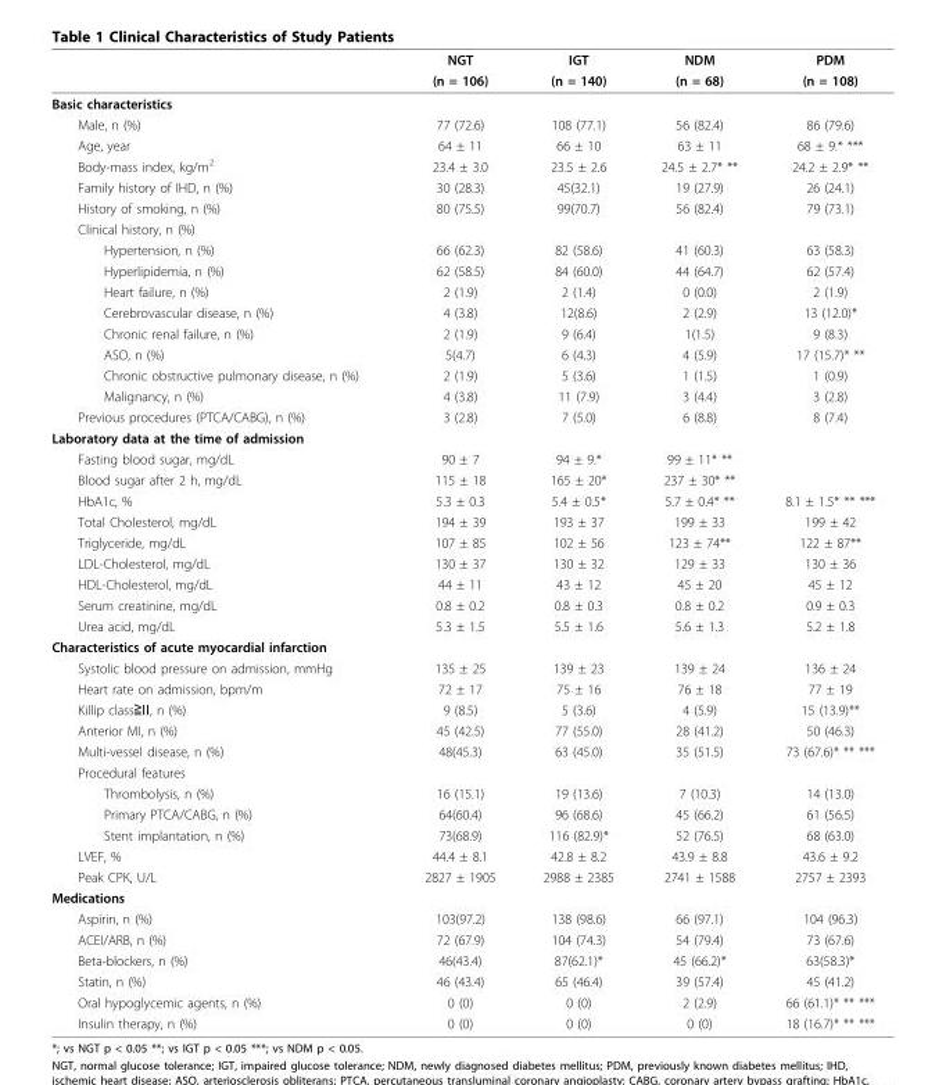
<table><thead><tr><td rowspan="2"></td><td rowspan="2">NGT (n = 106)</td><td rowspan="2">IGT (n = 140)</td><td rowspan="2">NDM (n = 68)</td><td rowspan="2">PDM (n = 108)</td></tr><tr></tr></thead><tbody><tr><td colspan="5">Basic characteristics</td></tr><tr><td>Male, n (%)</td><td>77 (72.6)</td><td>108 (77.1)</td><td>56 (82.4)</td><td>86 (79.6)</td></tr><tr><td>Age, year</td><td>64 ± 11</td><td>66 ± 10</td><td>63 ± 11</td><td>68 ± 9.* ***</td></tr><tr><td>Body-mass index, kg/m<sup>2</sup></td><td>23.4 ± 3.0</td><td>23.5 ± 2.6</td><td>24.5 ± 2.7* **</td><td>24.2 ± 2.9* **</td></tr><tr><td>Family history of IHD, n (%)</td><td>30 (28.3)</td><td>45(32.1)</td><td>19 (27.9)</td><td>26 (24.1)</td></tr><tr><td>History of smoking, n (%)</td><td>80 (75.5)</td><td>99(70.7)</td><td>56 (82.4)</td><td>79 (73.1)</td></tr><tr><td colspan="5">Clinical history, n (%)</td></tr><tr><td>Hypertension, n (%)</td><td>66 (62.3)</td><td>82 (58.6)</td><td>41 (60.3)</td><td>63 (58.3)</td></tr><tr><td>Hyperlipidemia, n (%)</td><td>62 (58.5)</td><td>84 (60.0)</td><td>44 (64.7)</td><td>62 (57.4)</td></tr><tr><td>Heart failure, n (%)</td><td>2 (1.9)</td><td>2 (1.4)</td><td>0 (0.0)</td><td>2 (1.9)</td></tr><tr><td>Cerebrovascular disease, n (%)</td><td>4 (3.8)</td><td>12(8.6)</td><td>2 (2.9)</td><td>13 (12.0)*</td></tr><tr><td>Chronic renal failure, n (%)</td><td>2 (1.9)</td><td>9 (6.4)</td><td>1(1.5)</td><td>9 (8.3)</td></tr><tr><td>ASO, n (%)</td><td>5(4.7)</td><td>6 (4.3)</td><td>4 (5.9)</td><td>17 (15.7)* **</td></tr><tr><td>Chronic obstructive pulmonary disease, n (%)</td><td>2 (1.9)</td><td>5 (3.6)</td><td>1 (1.5)</td><td>1 (0.9)</td></tr><tr><td>Malignancy, n (%)</td><td>4 (3.8)</td><td>11 (7.9)</td><td>3 (4.4)</td><td>3 (2.8)</td></tr><tr><td>Previous procedures (PTCA/CABG), n (%)</td><td>3 (2.8)</td><td>7 (5.0)</td><td>6 (8.8)</td><td>8 (7.4)</td></tr><tr><td colspan="5">Laboratory data at the time of admission</td></tr><tr><td>Fasting blood sugar, mg/dL</td><td>90 ± 7</td><td>94 ± 9.*</td><td>99 ± 11* **</td><td></td></tr><tr><td>Blood sugar after 2 h, mg/dL</td><td>115 ± 18</td><td>165 ± 20*</td><td>237 ± 30* **</td><td></td></tr><tr><td>HbA1c, %</td><td>5.3 ± 0.3</td><td>5.4 ± 0.5*</td><td>5.7 ± 0.4* **</td><td>8.1 ± 1.5* ** ***</td></tr><tr><td>Total Cholesterol, mg/dL</td><td>194 ± 39</td><td>193 ± 37</td><td>199 ± 33</td><td>199 ± 42</td></tr><tr><td>Triglyceride, mg/dL</td><td>107 ± 85</td><td>102 ± 56</td><td>123 ± 74**</td><td>122 ± 87**</td></tr><tr><td>LDL-Cholesterol, mg/dL</td><td>130 ± 37</td><td>130 ± 32</td><td>129 ± 33</td><td>130 ± 36</td></tr><tr><td>HDL-Cholesterol, mg/dL</td><td>44 ± 11</td><td>43 ± 12</td><td>45 ± 20</td><td>45 ± 12</td></tr><tr><td>Serum creatinine, mg/dL</td><td>0.8 ± 0.2</td><td>0.8 ± 0.3</td><td>0.8 ± 0.2</td><td>0.9 ± 0.3</td></tr><tr><td>Urea acid, mg/dL</td><td>5.3 ± 1.5</td><td>5.5 ± 1.6</td><td>5.6 ± 1.3</td><td>5.2 ± 1.8</td></tr><tr><td colspan="5">Characteristics of acute myocardial infarction</td></tr><tr><td>Systolic blood pressure on admission, mmHg</td><td>135 ± 25</td><td>139 ± 23</td><td>139 ± 24</td><td>136 ± 24</td></tr><tr><td>Heart rate on admission, bpm/m</td><td>72 ± 17</td><td>75 ± 16</td><td>76 ± 18</td><td>77 ± 19</td></tr><tr><td>Killip class≧Ⅱ, n (%)</td><td>9 (8.5)</td><td>5 (3.6)</td><td>4 (5.9)</td><td>15 (13.9)**</td></tr><tr><td>Anterior MI, n (%)</td><td>45 (42.5)</td><td>77 (55.0)</td><td>28 (41.2)</td><td>50 (46.3)</td></tr><tr><td>Multi-vessel disease, n (%)</td><td>48(45.3)</td><td>63 (45.0)</td><td>35 (51.5)</td><td>73 (67.6)* ** ***</td></tr><tr><td colspan="5">Procedural features</td></tr><tr><td>Thrombolysis, n (%)</td><td>16 (15.1)</td><td>19 (13.6)</td><td>7 (10.3)</td><td>14 (13.0)</td></tr><tr><td>Primary PTCA/CABG, n (%)</td><td>64(60.4)</td><td>96 (68.6)</td><td>45 (66.2)</td><td>61 (56.5)</td></tr><tr><td>Stent implantation, n (%)</td><td>73(68.9)</td><td>116 (82.9)*</td><td>52 (76.5)</td><td>68 (63.0)</td></tr><tr><td>LVEF, %</td><td>44.4 ± 8.1</td><td>42.8 ± 8.2</td><td>43.9 ± 8.8</td><td>43.6 ± 9.2</td></tr><tr><td>Peak CPK, U/L</td><td>2827 ± 1905</td><td>2988 ± 2385</td><td>2741 ± 1588</td><td>2757 ± 2393</td></tr><tr><td colspan="5">Medications</td></tr><tr><td>Aspirin, n (%)</td><td>103(97.2)</td><td>138 (98.6)</td><td>66 (97.1)</td><td>104 (96.3)</td></tr><tr><td>ACEI/ARB, n (%)</td><td>72 (67.9)</td><td>104 (74.3)</td><td>54 (79.4)</td><td>73 (67.6)</td></tr><tr><td>Beta-blockers, n (%)</td><td>46(43.4)</td><td>87(62.1)*</td><td>45 (66.2)*</td><td>63(58.3)*</td></tr><tr><td>Statin, n (%)</td><td>46 (43.4)</td><td>65 (46.4)</td><td>39 (57.4)</td><td>45 (41.2)</td></tr><tr><td>Oral hypoglycemic agents, n (%)</td><td>0 (0)</td><td>0 (0)</td><td>2 (2.9)</td><td>66 (61.1)* ** ***</td></tr><tr><td>Insulin therapy, n (%)</td><td>0 (0)</td><td>0 (0)</td><td>0 (0)</td><td>18 (16.7)* ** ***</td></tr></tbody></table>